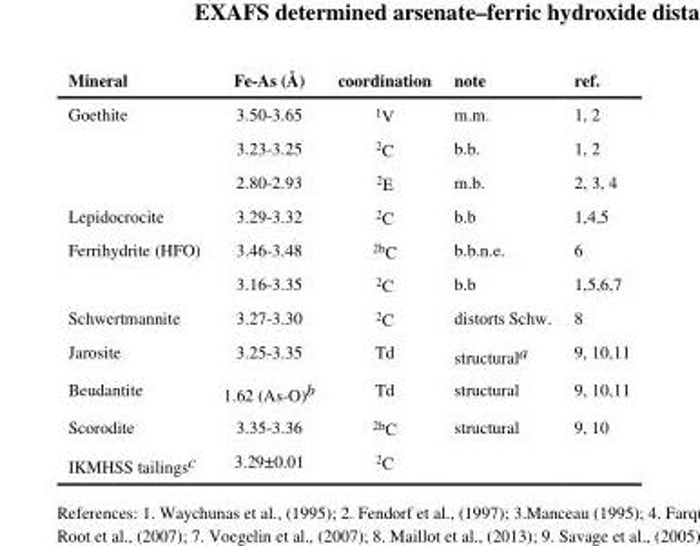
<table><thead><tr><td>Mineral</td><td>Fe-As (Å)</td><td>coordination</td><td>note</td><td>ref.</td></tr></thead><tbody><tr><td rowspan="3">Goethite</td><td>3.50-3.65</td><td><sup>1</sup>V</td><td>m.m.</td><td>1, 2</td></tr><tr><td>3.23-3.25</td><td><sup>2</sup>C</td><td>b.b.</td><td>1, 2</td></tr><tr><td>2.80-2.93</td><td><sup>2</sup>E</td><td>m.b.</td><td>2, 3, 4</td></tr><tr><td>Lepidocrocite</td><td>3.29-3.32</td><td><sup>2</sup>C</td><td>b.b</td><td>1,4,5</td></tr><tr><td rowspan="2">Ferrihydrite (HFO)</td><td>3.46-3.48</td><td><sup>2b</sup>C</td><td>b.b.n.e.</td><td>6</td></tr><tr><td>3.16-3.35</td><td><sup>2</sup>C</td><td>b.b</td><td>1,5,6,7</td></tr><tr><td>Schwertmannite</td><td>3.27-3.30</td><td><sup>2</sup>C</td><td>distorts Schw.</td><td>8</td></tr><tr><td>Jarosite</td><td>3.25-3.35</td><td>Td</td><td>structural<sup>a</sup></td><td>9, 10,11</td></tr><tr><td>Beudantite</td><td>1.62 (As-O)<sup>b</sup></td><td>Td</td><td>structural</td><td>9, 10,11</td></tr><tr><td>Scorodite</td><td>3.35-3.36</td><td><sup>2b</sup>C</td><td>structural</td><td>9, 10</td></tr><tr><td>IKMHSS tailings<sup>c</sup></td><td>3.29±0.01</td><td><sup>2</sup>C</td><td></td><td></td></tr></tbody></table>